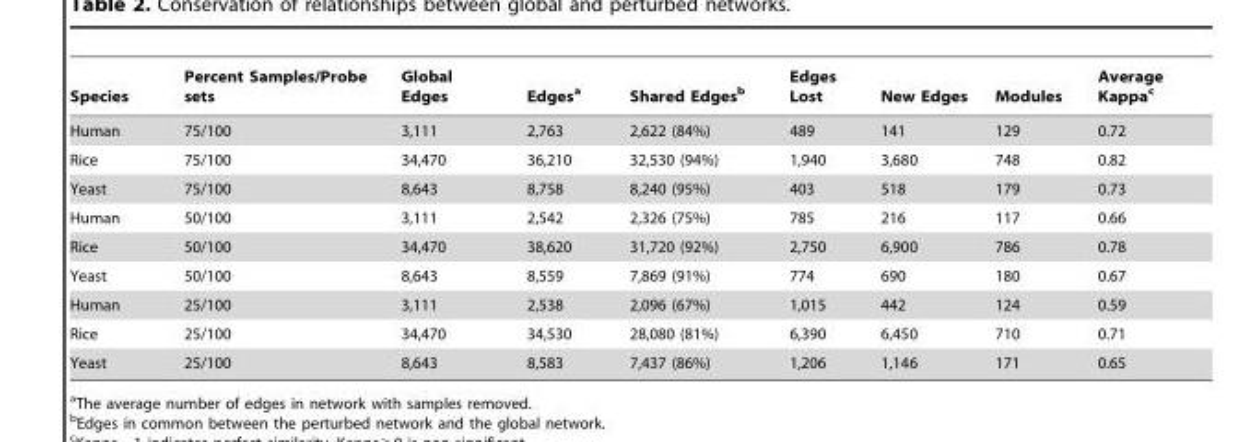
<table><thead><tr><td>Species</td><td>Percent Samples/Probe sets</td><td>Global Edges</td><td>Edges<sup>a</sup></td><td>Shared Edges<sup>b</sup></td><td>Edges Lost</td><td>New Edges</td><td>Modules</td><td>Average Kappa<sup>c</sup></td></tr></thead><tbody><tr><td>Human</td><td>75/100</td><td>3,111</td><td>2,763</td><td>2,622 (84%)</td><td>489</td><td>141</td><td>129</td><td>0.72</td></tr><tr><td>Rice</td><td>75/100</td><td>34,470</td><td>36,210</td><td>32,530 (94%)</td><td>1,940</td><td>3,680</td><td>748</td><td>0.82</td></tr><tr><td>Yeast</td><td>75/100</td><td>8,643</td><td>8,758</td><td>8,240 (95%)</td><td>403</td><td>518</td><td>179</td><td>0.73</td></tr><tr><td>Human</td><td>50/100</td><td>3,111</td><td>2,542</td><td>2,326 (75%)</td><td>785</td><td>216</td><td>117</td><td>0.66</td></tr><tr><td>Rice</td><td>50/100</td><td>34,470</td><td>38,620</td><td>31,720 (92%)</td><td>2,750</td><td>6,900</td><td>786</td><td>0.78</td></tr><tr><td>Yeast</td><td>50/100</td><td>8,643</td><td>8,559</td><td>7,869 (91%)</td><td>774</td><td>690</td><td>180</td><td>0.67</td></tr><tr><td>Human</td><td>25/100</td><td>3,111</td><td>2,538</td><td>2,096 (67%)</td><td>1,015</td><td>442</td><td>124</td><td>0.59</td></tr><tr><td>Rice</td><td>25/100</td><td>34,470</td><td>34,530</td><td>28,080 (81%)</td><td>6,390</td><td>6,450</td><td>710</td><td>0.71</td></tr><tr><td>Yeast</td><td>25/100</td><td>8,643</td><td>8,583</td><td>7,437 (86%)</td><td>1,206</td><td>1,146</td><td>171</td><td>0.65</td></tr></tbody></table>